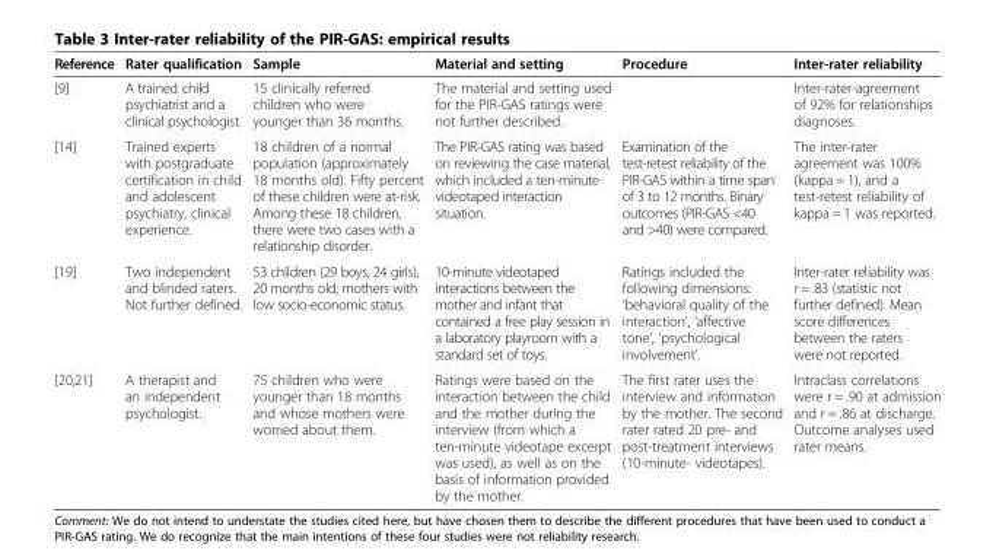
<table><thead><tr><td>Reference</td><td>Rater qualification</td><td>Sample</td><td>Material and setting</td><td>Procedure</td><td>Inter-rater reliability</td></tr></thead><tbody><tr><td>[9]</td><td>A trained child psychiatrist and a clinical psychologist.</td><td>15 clinically referred children who were younger than 36 months.</td><td>The material and setting used for the PIR-GAS ratings were not further described.</td><td></td><td>Inter-rater-agreement of 92% for relationships diagnoses.</td></tr><tr><td>[14]</td><td>Trained experts with postgraduate certification in child and adolescent psychiatry, clinical experience.</td><td>18 children of a normal population (approximately 18 months old). Fifty percent of these children were at-risk. Among these 18 children, there were two cases with a relationship disorder.</td><td>The PIR-GAS rating was based on reviewing the case material, which included a ten-minute videotaped interaction situation.</td><td>Examination of the test-retest reliability of the PIR-GAS within a time span of 3 to 12 months. Binary outcomes (PIR-GAS &lt;40 and &gt;40) were compared.</td><td>The inter-rater agreement was 100% (kappa = 1), and a test-retest reliability of kappa = 1 was reported.</td></tr><tr><td>[19]</td><td>Two independent and blinded raters. Not further defined.</td><td>53 children (29 boys, 24 girls), 20 months old; mothers with low socio-economic status.</td><td>10-minute videotaped interactions between the mother and infant that contained a free play session in a laboratory playroom with a standard set of toys.</td><td>Ratings included the following dimensions: ‘behavioral quality of the interaction’, ‘affective tone’, ‘psychological involvement’.</td><td>Inter-rater reliability was r = .83 (statistic not further defined). Mean score differences between the raters were not reported.</td></tr><tr><td>[20,21]</td><td>A therapist and an independent psychologist.</td><td>75 children who were younger than 18 months and whose mothers were worried about them.</td><td>Ratings were based on the interaction between the child and the mother during the interview (from which a ten-minute videotape excerpt was used), as well as on the basis of information provided by the mother.</td><td>The first rater uses the interview and information by the mother. The second rater rated 20 pre- and post-treatment interviews (10-minute- videotapes).</td><td>Intraclass correlations were r = .90 at admission and r = .86 at discharge. Outcome analyses used rater means.</td></tr></tbody></table>